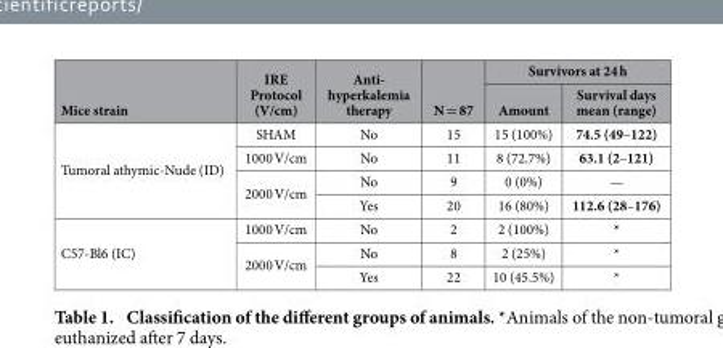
<table><thead><tr><td rowspan="2">Mice strain</td><td rowspan="2">IRE Protocol (V/cm)</td><td rowspan="2">Anti- hyperkalemia therapy</td><td rowspan="2">N = 87</td><td colspan="2">Survivors at 24 h</td></tr><tr><td>Amount</td><td>Survival days mean (range)</td></tr></thead><tbody><tr><td rowspan="4">Tumoral athymic-Nude (ID)</td><td>SHAM</td><td>No</td><td>15</td><td>15 (100%)</td><td>74.5 (49–122)</td></tr><tr><td>1000 V/cm</td><td>No</td><td>11</td><td>8 (72.7%)</td><td>63.1 (2–121)</td></tr><tr><td rowspan="2">2000 V/cm</td><td>No</td><td>9</td><td>0 (0%)</td><td>—</td></tr><tr><td>Yes</td><td>20</td><td>16 (80%)</td><td>112.6 (28–176)</td></tr><tr><td rowspan="3">C57-Bl6 (IC)</td><td>1000 V/cm</td><td>No</td><td>2</td><td>2 (100%)</td><td>*</td></tr><tr><td rowspan="2">2000 V/cm</td><td>No</td><td>8</td><td>2 (25%)</td><td>*</td></tr><tr><td>Yes</td><td>22</td><td>10 (45.5%)</td><td>*</td></tr></tbody></table>